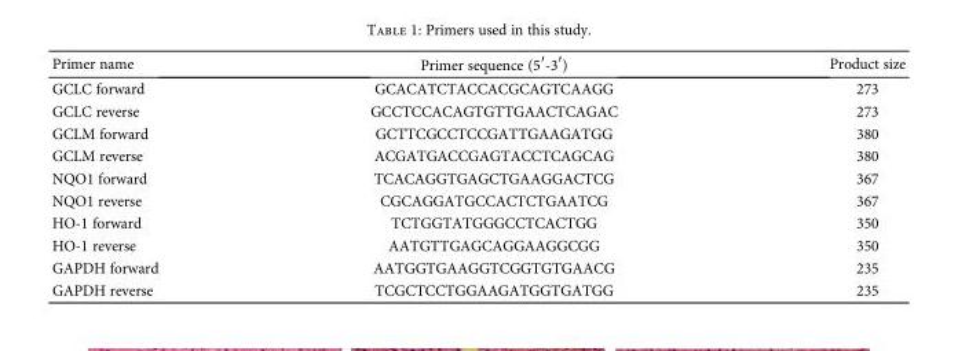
<table><thead><tr><td>Primer name</td><td>Primer sequence (5′-3′)</td><td>Product size</td></tr></thead><tbody><tr><td>GCLC forward</td><td>GCACATCTACCACGCAGTCAAGG</td><td>273</td></tr><tr><td>GCLC reverse</td><td>GCCTCCACAGTGTTGAACTCAGAC</td><td>273</td></tr><tr><td>GCLM forward</td><td>GCTTCGCCTCCGATTGAAGATGG</td><td>380</td></tr><tr><td>GCLM reverse</td><td>ACGATGACCGAGTACCTCAGCAG</td><td>380</td></tr><tr><td>NQO1 forward</td><td>TCACAGGTGAGCTGAAGGACTCG</td><td>367</td></tr><tr><td>NQO1 reverse</td><td>CGCAGGATGCCACTCTGAATCG</td><td>367</td></tr><tr><td>HO-1 forward</td><td>TCTGGTATGGGCCTCACTGG</td><td>350</td></tr><tr><td>HO-1 reverse</td><td>AATGTTGAGCAGGAAGGCGG</td><td>350</td></tr><tr><td>GAPDH forward</td><td>AATGGTGAAGGTCGGTGTGAACG</td><td>235</td></tr><tr><td>GAPDH reverse</td><td>TCGCTCCTGGAAGATGGTGATGG</td><td>235</td></tr></tbody></table>